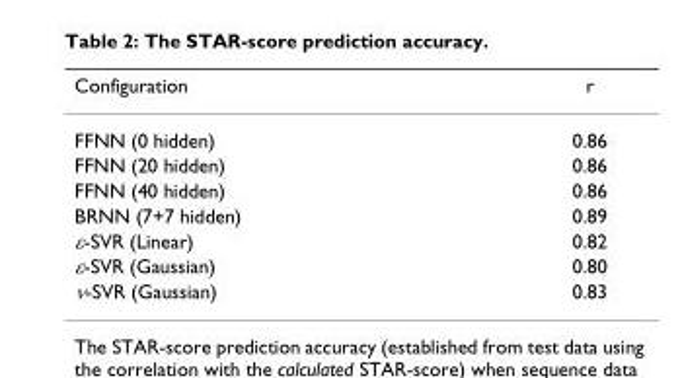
<table><thead><tr><td>Configuration</td><td>r</td></tr></thead><tbody><tr><td>FFNN (0 hidden)</td><td>0.86</td></tr><tr><td>FFNN (20 hidden)</td><td>0.86</td></tr><tr><td>FFNN (40 hidden)</td><td>0.86</td></tr><tr><td>BRNN (7+7 hidden)</td><td>0.89</td></tr><tr><td>ε-SVR (Linear)</td><td>0.82</td></tr><tr><td>ε-SVR (Gaussian)</td><td>0.80</td></tr><tr><td>ν-SVR (Gaussian)</td><td>0.83</td></tr></tbody></table>